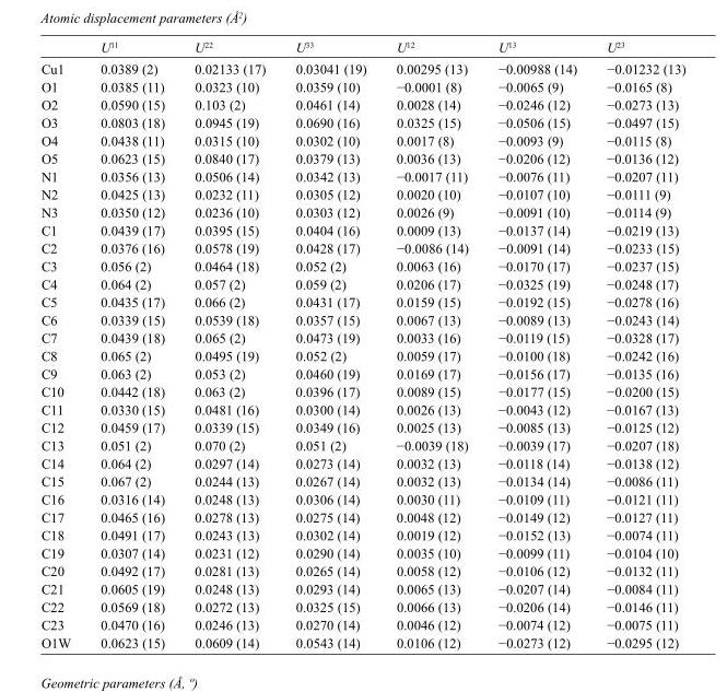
<table><thead><tr><td></td><td>U<sup>11</sup></td><td>U<sup>22</sup></td><td>U<sup>33</sup></td><td>U<sup>12</sup></td><td>U<sup>13</sup></td><td>U<sup>23</sup></td></tr></thead><tbody><tr><td>Cu1</td><td>0.0389 (2)</td><td>0.02133 (17)</td><td>0.03041 (19)</td><td>0.00295 (13)</td><td>−0.00988 (14)</td><td>−0.01232 (13)</td></tr><tr><td>O1</td><td>0.0385 (11)</td><td>0.0323 (10)</td><td>0.0359 (10)</td><td>−0.0001 (8)</td><td>−0.0065 (9)</td><td>−0.0165 (8)</td></tr><tr><td>O2</td><td>0.0590 (15)</td><td>0.103 (2)</td><td>0.0461 (14)</td><td>0.0028 (14)</td><td>−0.0246 (12)</td><td>−0.0273 (13)</td></tr><tr><td>O3</td><td>0.0803 (18)</td><td>0.0945 (19)</td><td>0.0690 (16)</td><td>0.0325 (15)</td><td>−0.0506 (15)</td><td>−0.0497 (15)</td></tr><tr><td>O4</td><td>0.0438 (11)</td><td>0.0315 (10)</td><td>0.0302 (10)</td><td>0.0017 (8)</td><td>−0.0093 (9)</td><td>−0.0115 (8)</td></tr><tr><td>O5</td><td>0.0623 (15)</td><td>0.0840 (17)</td><td>0.0379 (13)</td><td>0.0036 (13)</td><td>−0.0206 (12)</td><td>−0.0136 (12)</td></tr><tr><td>N1</td><td>0.0356 (13)</td><td>0.0506 (14)</td><td>0.0342 (13)</td><td>−0.0017 (11)</td><td>−0.0076 (11)</td><td>−0.0207 (11)</td></tr><tr><td>N2</td><td>0.0425 (13)</td><td>0.0232 (11)</td><td>0.0305 (12)</td><td>0.0020 (10)</td><td>−0.0107 (10)</td><td>−0.0111 (9)</td></tr><tr><td>N3</td><td>0.0350 (12)</td><td>0.0236 (10)</td><td>0.0303 (12)</td><td>0.0026 (9)</td><td>−0.0091 (10)</td><td>−0.0114 (9)</td></tr><tr><td>C1</td><td>0.0439 (17)</td><td>0.0395 (15)</td><td>0.0404 (16)</td><td>0.0009 (13)</td><td>−0.0137 (14)</td><td>−0.0219 (13)</td></tr><tr><td>C2</td><td>0.0376 (16)</td><td>0.0578 (19)</td><td>0.0428 (17)</td><td>−0.0086 (14)</td><td>−0.0091 (14)</td><td>−0.0233 (15)</td></tr><tr><td>C3</td><td>0.056 (2)</td><td>0.0464 (18)</td><td>0.052 (2)</td><td>0.0063 (16)</td><td>−0.0170 (17)</td><td>−0.0237 (15)</td></tr><tr><td>C4</td><td>0.064 (2)</td><td>0.057 (2)</td><td>0.059 (2)</td><td>0.0206 (17)</td><td>−0.0325 (19)</td><td>−0.0248 (17)</td></tr><tr><td>C5</td><td>0.0435 (17)</td><td>0.066 (2)</td><td>0.0431 (17)</td><td>0.0159 (15)</td><td>−0.0192 (15)</td><td>−0.0278 (16)</td></tr><tr><td>C6</td><td>0.0339 (15)</td><td>0.0539 (18)</td><td>0.0357 (15)</td><td>0.0067 (13)</td><td>−0.0089 (13)</td><td>−0.0243 (14)</td></tr><tr><td>C7</td><td>0.0439 (18)</td><td>0.065 (2)</td><td>0.0473 (19)</td><td>0.0033 (16)</td><td>−0.0119 (15)</td><td>−0.0328 (17)</td></tr><tr><td>C8</td><td>0.065 (2)</td><td>0.0495 (19)</td><td>0.052 (2)</td><td>0.0059 (17)</td><td>−0.0100 (18)</td><td>−0.0242 (16)</td></tr><tr><td>C9</td><td>0.063 (2)</td><td>0.053 (2)</td><td>0.0460 (19)</td><td>0.0169 (17)</td><td>−0.0156 (17)</td><td>−0.0135 (16)</td></tr><tr><td>C10</td><td>0.0442 (18)</td><td>0.063 (2)</td><td>0.0396 (17)</td><td>0.0089 (15)</td><td>−0.0177 (15)</td><td>−0.0200 (15)</td></tr><tr><td>C11</td><td>0.0330 (15)</td><td>0.0481 (16)</td><td>0.0300 (14)</td><td>0.0026 (13)</td><td>−0.0043 (12)</td><td>−0.0167 (13)</td></tr><tr><td>C12</td><td>0.0459 (17)</td><td>0.0339 (15)</td><td>0.0349 (16)</td><td>0.0025 (13)</td><td>−0.0085 (13)</td><td>−0.0125 (12)</td></tr><tr><td>C13</td><td>0.051 (2)</td><td>0.070 (2)</td><td>0.051 (2)</td><td>−0.0039 (18)</td><td>−0.0039 (17)</td><td>−0.0207 (18)</td></tr><tr><td>C14</td><td>0.064 (2)</td><td>0.0297 (14)</td><td>0.0273 (14)</td><td>0.0032 (13)</td><td>−0.0118 (14)</td><td>−0.0138 (12)</td></tr><tr><td>C15</td><td>0.067 (2)</td><td>0.0244 (13)</td><td>0.0267 (14)</td><td>0.0032 (13)</td><td>−0.0134 (14)</td><td>−0.0086 (11)</td></tr><tr><td>C16</td><td>0.0316 (14)</td><td>0.0248 (13)</td><td>0.0306 (14)</td><td>0.0030 (11)</td><td>−0.0109 (11)</td><td>−0.0121 (11)</td></tr><tr><td>C17</td><td>0.0465 (16)</td><td>0.0278 (13)</td><td>0.0275 (14)</td><td>0.0048 (12)</td><td>−0.0149 (12)</td><td>−0.0127 (11)</td></tr><tr><td>C18</td><td>0.0491 (17)</td><td>0.0243 (13)</td><td>0.0302 (14)</td><td>0.0019 (12)</td><td>−0.0152 (13)</td><td>−0.0074 (11)</td></tr><tr><td>C19</td><td>0.0307 (14)</td><td>0.0231 (12)</td><td>0.0290 (14)</td><td>0.0035 (10)</td><td>−0.0099 (11)</td><td>−0.0104 (10)</td></tr><tr><td>C20</td><td>0.0492 (17)</td><td>0.0281 (13)</td><td>0.0265 (14)</td><td>0.0058 (12)</td><td>−0.0106 (12)</td><td>−0.0132 (11)</td></tr><tr><td>C21</td><td>0.0605 (19)</td><td>0.0248 (13)</td><td>0.0293 (14)</td><td>0.0065 (13)</td><td>−0.0207 (14)</td><td>−0.0084 (11)</td></tr><tr><td>C22</td><td>0.0569 (18)</td><td>0.0272 (13)</td><td>0.0325 (15)</td><td>0.0066 (13)</td><td>−0.0206 (14)</td><td>−0.0146 (11)</td></tr><tr><td>C23</td><td>0.0470 (16)</td><td>0.0246 (13)</td><td>0.0270 (14)</td><td>0.0046 (12)</td><td>−0.0074 (12)</td><td>−0.0075 (11)</td></tr><tr><td>O1W</td><td>0.0623 (15)</td><td>0.0609 (14)</td><td>0.0543 (14)</td><td>0.0106 (12)</td><td>−0.0273 (12)</td><td>−0.0295 (12)</td></tr></tbody></table>